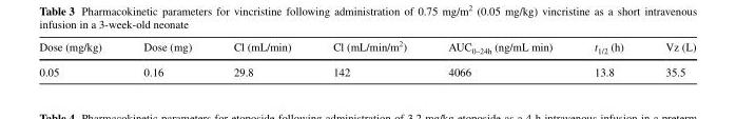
<table><thead><tr><td>Dose (mg/kg)</td><td>Dose (mg)</td><td>Cl (mL/min)</td><td>Cl (mL/min/m<sup>2</sup>)</td><td>AUC<sub>0–24h</sub> (ng/mL min)</td><td>t<sub>1/2</sub> (h)</td><td>Vz (L)</td></tr></thead><tbody><tr><td>0.05</td><td>0.16</td><td>29.8</td><td>142</td><td>4066</td><td>13.8</td><td>35.5</td></tr></tbody></table>